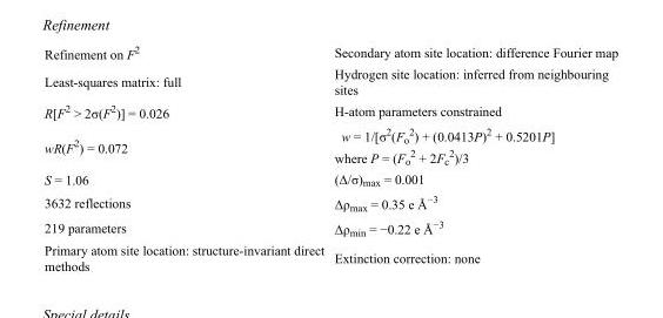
<table><tbody><tr><td>Refinement on F<sup>2</sup></td><td>Secondary atom site location: difference Fourier map</td></tr><tr><td>Least-squares matrix: full</td><td>Hydrogen site location: inferred from neighbouring sites</td></tr><tr><td>R[F<sup>2</sup> &gt; 2σ(F<sup>2</sup>)] = 0.026</td><td>H-atom parameters constrained</td></tr><tr><td>wR(F<sup>2</sup>) = 0.072</td><td>w = 1/[σ<sup>2</sup>(F<sub>o</sub> <sup>2</sup>) + (0.0413P)<sup>2</sup> + 0.5201P] where P = (F<sub>o</sub> <sup>2</sup> + 2F<sub>c</sub> <sup>2</sup>)/3</td></tr><tr><td>S = 1.06</td><td>(Δ/σ)<sub>max</sub> = 0.001</td></tr><tr><td>3632 reflections</td><td>Δρ<sub>max</sub> = 0.35 e Å<sup>−3</sup></td></tr><tr><td>219 parameters</td><td>Δρ<sub>min</sub> = −0.22 e Å<sup>−3</sup></td></tr><tr><td>Primary atom site location: structure-invariant direct methods</td><td>Extinction correction: none</td></tr></tbody></table>